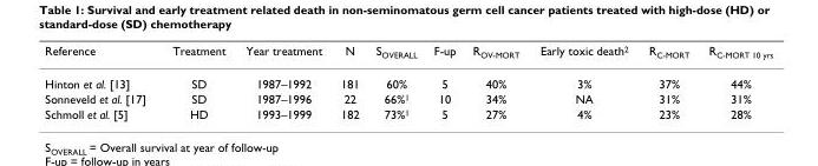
<table><thead><tr><td>Reference</td><td>Treatment</td><td>Year treatment</td><td>N</td><td>S<sub>OVERALL</sub></td><td>F-up</td><td>R<sub>OV-MORT</sub></td><td>Early toxic death<sup>2</sup></td><td>R<sub>C-MORT</sub></td><td>R<sub>C-MORT 10 yrs</sub></td></tr></thead><tbody><tr><td>Hinton et al. [13]</td><td>SD</td><td>1987–1992</td><td>181</td><td>60%</td><td>5</td><td>40%</td><td>3%</td><td>37%</td><td>44%</td></tr><tr><td>Sonneveld et al. [17]</td><td>SD</td><td>1987–1996</td><td>22</td><td>66%<sup>1</sup></td><td>10</td><td>34%</td><td>NA</td><td>31%</td><td>31%</td></tr><tr><td>Schmoll et al. [5]</td><td>HD</td><td>1993–1999</td><td>182</td><td>73%<sup>1</sup></td><td>5</td><td>27%</td><td>4%</td><td>23%</td><td>28%</td></tr></tbody></table>